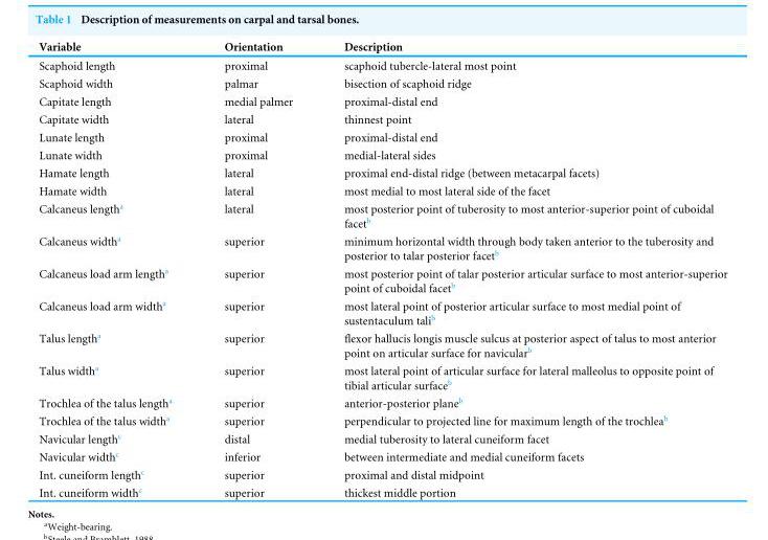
<table><thead><tr><td>Variable</td><td>Orientation</td><td>Description</td></tr></thead><tbody><tr><td>Scaphoid length</td><td>proximal</td><td>scaphoid tubercle-lateral most point</td></tr><tr><td>Scaphoid width</td><td>palmar</td><td>bisection of scaphoid ridge</td></tr><tr><td>Capitate length</td><td>medial palmer</td><td>proximal-distal end</td></tr><tr><td>Capitate width</td><td>lateral</td><td>thinnest point</td></tr><tr><td>Lunate length</td><td>proximal</td><td>proximal-distal end</td></tr><tr><td>Lunate width</td><td>proximal</td><td>medial-lateral sides</td></tr><tr><td>Hamate length</td><td>lateral</td><td>proximal end-distal ridge (between metacarpal facets)</td></tr><tr><td>Hamate width</td><td>lateral</td><td>most medial to most lateral side of the facet</td></tr><tr><td>Calcaneus length<sup>a</sup></td><td>lateral</td><td>most posterior point of tuberosity to most anterior-superior point of cuboidal facet<sup>b</sup></td></tr><tr><td>Calcaneus width<sup>a</sup></td><td>superior</td><td>minimum horizontal width through body taken anterior to the tuberosity and posterior to talar posterior facet<sup>b</sup></td></tr><tr><td>Calcaneus load arm length<sup>a</sup></td><td>superior</td><td>most posterior point of talar posterior articular surface to most anterior-superior point of cuboidal facet<sup>b</sup></td></tr><tr><td>Calcaneus load arm width<sup>a</sup></td><td>superior</td><td>most lateral point of posterior articular surface to most medial point of sustentaculum tali<sup>b</sup></td></tr><tr><td>Talus length<sup>a</sup></td><td>superior</td><td>flexor hallucis longis muscle sulcus at posterior aspect of talus to most anterior point on articular surface for navicular<sup>b</sup></td></tr><tr><td>Talus width<sup>a</sup></td><td>superior</td><td>most lateral point of articular surface for lateral malleolus to opposite point of tibial articular surface<sup>b</sup></td></tr><tr><td>Trochlea of the talus length<sup>a</sup></td><td>superior</td><td>anterior-posterior plane<sup>b</sup></td></tr><tr><td>Trochlea of the talus width<sup>a</sup></td><td>superior</td><td>perpendicular to projected line for maximum length of the trochlea<sup>b</sup></td></tr><tr><td>Navicular length<sup>c</sup></td><td>distal</td><td>medial tuberosity to lateral cuneiform facet</td></tr><tr><td>Navicular width<sup>c</sup></td><td>inferior</td><td>between intermediate and medial cuneiform facets</td></tr><tr><td>Int. cuneiform length<sup>c</sup></td><td>superior</td><td>proximal and distal midpoint</td></tr><tr><td>Int. cuneiform width<sup>c</sup></td><td>superior</td><td>thickest middle portion</td></tr></tbody></table>